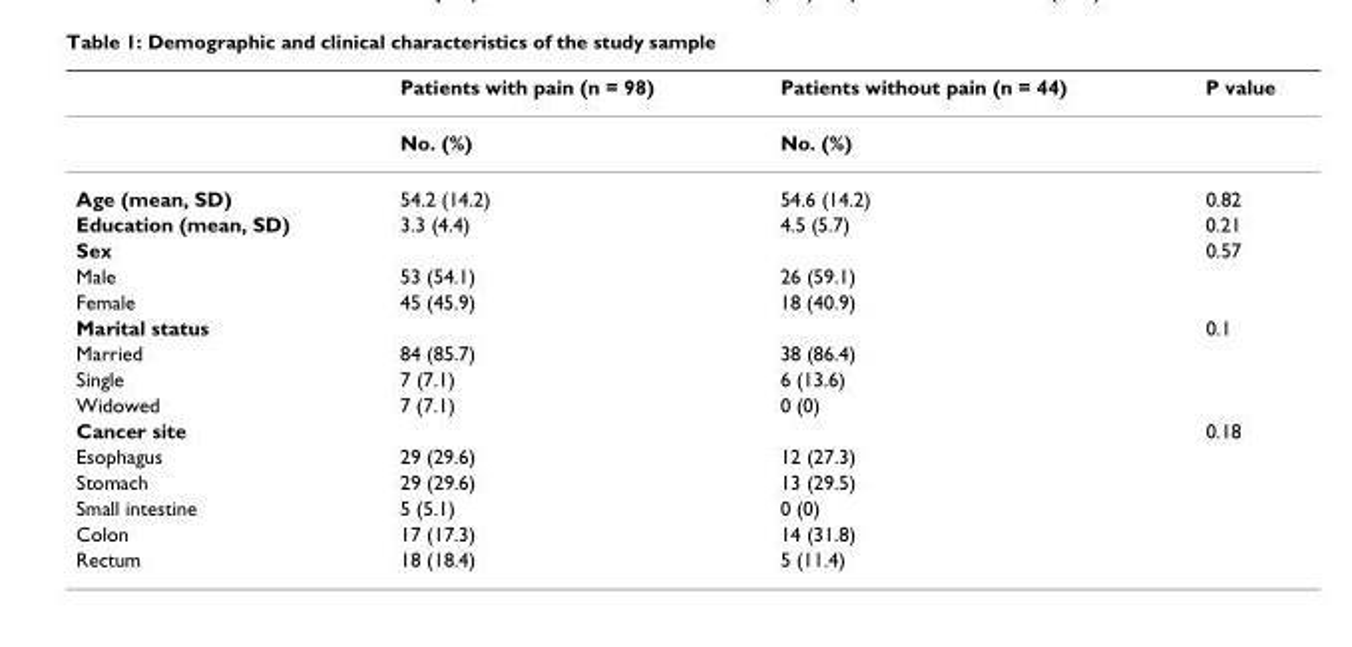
<table><thead><tr><td></td><td>Patients with pain (n = 98)</td><td>Patients without pain (n = 44)</td><td>P value</td></tr></thead><tbody><tr><td></td><td>No. (%)</td><td>No. (%)</td><td></td></tr><tr><td>Age (mean, SD)</td><td>54.2 (14.2)</td><td>54.6 (14.2)</td><td>0.82</td></tr><tr><td>Education (mean, SD)</td><td>3.3 (4.4)</td><td>4.5 (5.7)</td><td>0.21</td></tr><tr><td>Sex</td><td></td><td></td><td>0.57</td></tr><tr><td>Male</td><td>53 (54.1)</td><td>26 (59.1)</td><td></td></tr><tr><td>Female</td><td>45 (45.9)</td><td>18 (40.9)</td><td></td></tr><tr><td>Marital status</td><td></td><td></td><td>0.1</td></tr><tr><td>Married</td><td>84 (85.7)</td><td>38 (86.4)</td><td></td></tr><tr><td>Single</td><td>7 (7.1)</td><td>6 (13.6)</td><td></td></tr><tr><td>Widowed</td><td>7 (7.1)</td><td>0 (0)</td><td></td></tr><tr><td>Cancer site</td><td></td><td></td><td>0.18</td></tr><tr><td>Esophagus</td><td>29 (29.6)</td><td>12 (27.3)</td><td></td></tr><tr><td>Stomach</td><td>29 (29.6)</td><td>13 (29.5)</td><td></td></tr><tr><td>Small intestine</td><td>5 (5.1)</td><td>0 (0)</td><td></td></tr><tr><td>Colon</td><td>17 (17.3)</td><td>14 (31.8)</td><td></td></tr><tr><td>Rectum</td><td>18 (18.4)</td><td>5 (11.4)</td><td></td></tr></tbody></table>